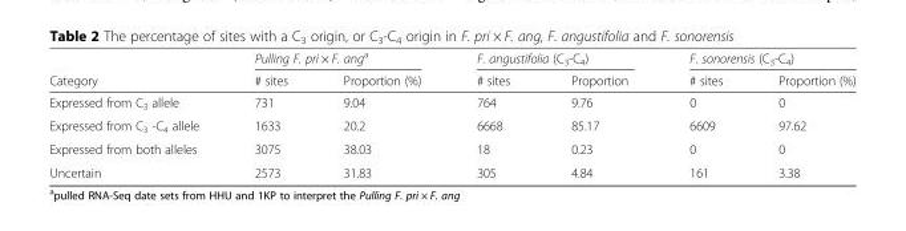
<table><thead><tr><td rowspan="2">Category</td><td colspan="2">Pulling F. pri × F. ang<sup>a</sup></td><td colspan="2">F. angustifolia (C<sub>3</sub>-C<sub>4</sub>)</td><td colspan="2">F. sonorensis (C<sub>3</sub>-C<sub>4</sub>)</td></tr><tr><td># sites</td><td>Proportion (%)</td><td># sites</td><td>Proportion</td><td># sites</td><td>Proportion (%)</td></tr></thead><tbody><tr><td>Expressed from C<sub>3</sub> allele</td><td>731</td><td>9.04</td><td>764</td><td>9.76</td><td>0</td><td>0</td></tr><tr><td>Expressed from C<sub>3</sub> -C<sub>4</sub> allele</td><td>1633</td><td>20.2</td><td>6668</td><td>85.17</td><td>6609</td><td>97.62</td></tr><tr><td>Expressed from both alleles</td><td>3075</td><td>38.03</td><td>18</td><td>0.23</td><td>0</td><td>0</td></tr><tr><td>Uncertain</td><td>2573</td><td>31.83</td><td>305</td><td>4.84</td><td>161</td><td>3.38</td></tr></tbody></table>